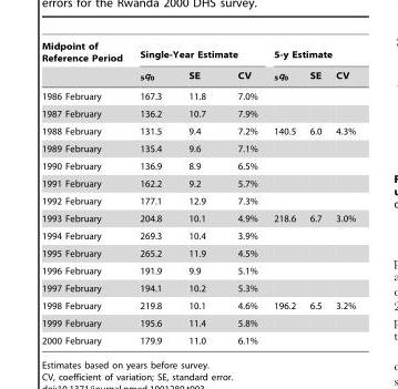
<table><thead><tr><td rowspan="2">Midpoint of Reference Period</td><td colspan="3">Single-Year Estimate</td><td colspan="3">5-y Estimate</td></tr><tr><td><sub>5</sub>q<sub>0</sub></td><td>SE</td><td>CV</td><td><sub>5</sub>q<sub>0</sub></td><td>SE</td><td>CV</td></tr></thead><tbody><tr><td>1986 February</td><td>167.3</td><td>11.8</td><td>7.0%</td><td></td><td></td><td></td></tr><tr><td>1987 February</td><td>136.2</td><td>10.7</td><td>7.9%</td><td></td><td></td><td></td></tr><tr><td>1988 February</td><td>131.5</td><td>9.4</td><td>7.2%</td><td>140.5</td><td>6.0</td><td>4.3%</td></tr><tr><td>1989 February</td><td>135.4</td><td>9.6</td><td>7.1%</td><td></td><td></td><td></td></tr><tr><td>1990 February</td><td>136.9</td><td>8.9</td><td>6.5%</td><td></td><td></td><td></td></tr><tr><td>1991 February</td><td>162.2</td><td>9.2</td><td>5.7%</td><td></td><td></td><td></td></tr><tr><td>1992 February</td><td>177.1</td><td>12.9</td><td>7.3%</td><td></td><td></td><td></td></tr><tr><td>1993 February</td><td>204.8</td><td>10.1</td><td>4.9%</td><td>218.6</td><td>6.7</td><td>3.0%</td></tr><tr><td>1994 February</td><td>269.3</td><td>10.4</td><td>3.9%</td><td></td><td></td><td></td></tr><tr><td>1995 February</td><td>265.2</td><td>11.9</td><td>4.5%</td><td></td><td></td><td></td></tr><tr><td>1996 February</td><td>191.9</td><td>9.9</td><td>5.1%</td><td></td><td></td><td></td></tr><tr><td>1997 February</td><td>194.1</td><td>10.2</td><td>5.3%</td><td></td><td></td><td></td></tr><tr><td>1998 February</td><td>219.8</td><td>10.1</td><td>4.6%</td><td>196.2</td><td>6.5</td><td>3.2%</td></tr><tr><td>1999 February</td><td>195.6</td><td>11.4</td><td>5.8%</td><td></td><td></td><td></td></tr><tr><td>2000 February</td><td>179.9</td><td>11.0</td><td>6.1%</td><td></td><td></td><td></td></tr></tbody></table>